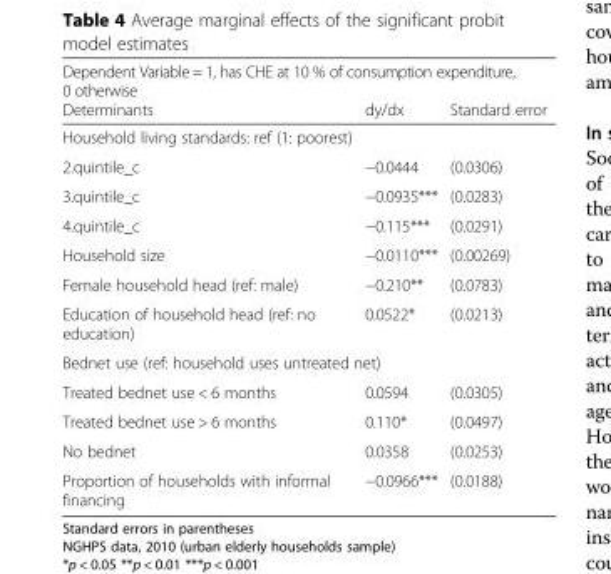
<table><thead><tr><td colspan="3">Dependent Variable = 1, has CHE at 10 % of consumption expenditure, 0 otherwise</td></tr><tr><td>Determinants</td><td>dy/dx</td><td>Standard error</td></tr></thead><tbody><tr><td colspan="3">Household living standards: ref (1: poorest)</td></tr><tr><td>2.quintile_c</td><td>−0.0444</td><td>(0.0306)</td></tr><tr><td>3.quintile_c</td><td>−0.0935***</td><td>(0.0283)</td></tr><tr><td>4.quintile_c</td><td>−0.115***</td><td>(0.0291)</td></tr><tr><td>Household size</td><td>−0.0110***</td><td>(0.00269)</td></tr><tr><td>Female household head (ref: male)</td><td>−0.210**</td><td>(0.0783)</td></tr><tr><td>Education of household head (ref: no education)</td><td>0.0522*</td><td>(0.0213)</td></tr><tr><td colspan="3">Bednet use (ref: household uses untreated net)</td></tr><tr><td>Treated bednet use &lt; 6 months</td><td>0.0594</td><td>(0.0305)</td></tr><tr><td>Treated bednet use &gt; 6 months</td><td>0.110*</td><td>(0.0497)</td></tr><tr><td>No bednet</td><td>0.0358</td><td>(0.0253)</td></tr><tr><td>Proportion of households with informal financing</td><td>−0.0966***</td><td>(0.0188)</td></tr></tbody></table>